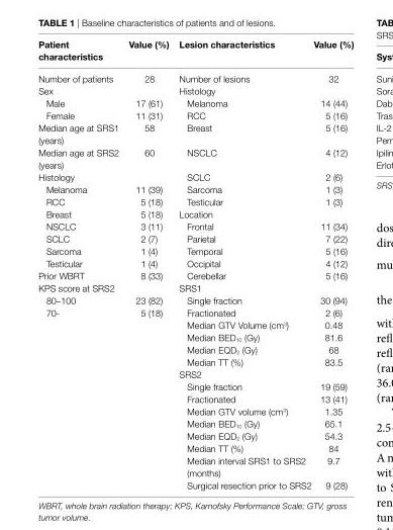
<table><thead><tr><td>Patient characteristics</td><td>Value (%)</td><td>lesion characteristics</td><td>Value (%)</td></tr></thead><tbody><tr><td>Number of patients</td><td>28</td><td>Number of lesions</td><td>32</td></tr><tr><td>Sex</td><td></td><td>Histology</td><td></td></tr><tr><td>Male</td><td>17 (61)</td><td>Melanoma</td><td>14 (44)</td></tr><tr><td>Female</td><td>11 (31)</td><td>RCC</td><td>5 (16)</td></tr><tr><td>Median age at SRS1 (years)</td><td>58</td><td>Breast</td><td>5 (16)</td></tr><tr><td>Median age at SRS2 (years)</td><td>60</td><td>NSCLC</td><td>4 (12)</td></tr><tr><td>Histology</td><td></td><td>SCLC</td><td>2 (6)</td></tr><tr><td>Melanoma</td><td>11 (39)</td><td>Sarcoma</td><td>1 (3)</td></tr><tr><td>RCC</td><td>5 (18)</td><td>Testicular</td><td>1 (3)</td></tr><tr><td>Breast</td><td>5 (18)</td><td>Location</td><td></td></tr><tr><td>NSCLC</td><td>3 (11)</td><td>Frontal</td><td>11 (34)</td></tr><tr><td>SCLC</td><td>2 (7)</td><td>Parietal</td><td>7 (22)</td></tr><tr><td>Sarcoma</td><td>1 (4)</td><td>Temporal</td><td>5 (16)</td></tr><tr><td>Testicular</td><td>1 (4)</td><td>Occipital</td><td>4 (12)</td></tr><tr><td>Prior WBRT</td><td>8 (33)</td><td>Cerebellar</td><td>5 (16)</td></tr><tr><td>KPS score at SRS2</td><td></td><td>SRS1</td><td></td></tr><tr><td>80–100</td><td>23 (82)</td><td>Single fraction</td><td>30 (94)</td></tr><tr><td rowspan="14">70-</td><td>5 (18)</td><td>Fractionated</td><td>2 (6)</td></tr><tr><td></td><td>Median GTV Volume (cm<sup>3</sup>)</td><td>0.48</td></tr><tr><td></td><td>Median BED<sub>10</sub> (Gy)</td><td>81.6</td></tr><tr><td></td><td>Median EQD<sub>2</sub> (Gy)</td><td>68</td></tr><tr><td></td><td>Median TT (%)</td><td>83.5</td></tr><tr><td></td><td>SRS2</td><td></td></tr><tr><td></td><td>Single fraction</td><td>19 (59)</td></tr><tr><td></td><td>Fractionated</td><td>13 (41)</td></tr><tr><td></td><td>Median GTV volume (cm<sup>3</sup>)</td><td>1.35</td></tr><tr><td></td><td>Median BED<sub>10</sub> (Gy)</td><td>65.1</td></tr><tr><td></td><td>Median EQD<sub>2</sub> (Gy)</td><td>54.3</td></tr><tr><td></td><td>Median TT (%)</td><td>84</td></tr><tr><td></td><td>Median interval SRS1 to SRS2 (months)</td><td>9.7</td></tr><tr><td></td><td>Surgical resection prior to SRS2</td><td>9 (28)</td></tr></tbody></table>